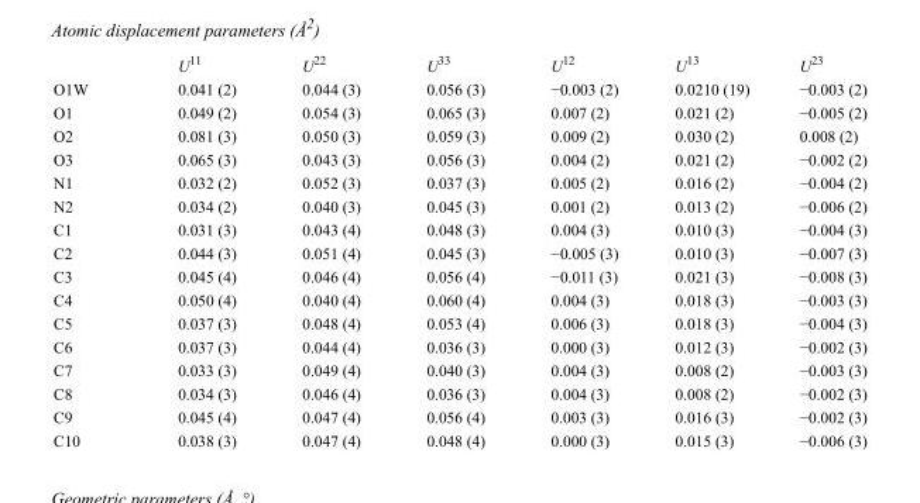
<table><thead><tr><td></td><td>U<sup>11</sup></td><td>U<sup>22</sup></td><td>U<sup>33</sup></td><td>U<sup>12</sup></td><td>U<sup>13</sup></td><td>U<sup>23</sup></td></tr></thead><tbody><tr><td>O1W</td><td>0.041 (2)</td><td>0.044 (3)</td><td>0.056 (3)</td><td>−0.003 (2)</td><td>0.0210 (19)</td><td>−0.003 (2)</td></tr><tr><td>O1</td><td>0.049 (2)</td><td>0.054 (3)</td><td>0.065 (3)</td><td>0.007 (2)</td><td>0.021 (2)</td><td>−0.005 (2)</td></tr><tr><td>O2</td><td>0.081 (3)</td><td>0.050 (3)</td><td>0.059 (3)</td><td>0.009 (2)</td><td>0.030 (2)</td><td>0.008 (2)</td></tr><tr><td>O3</td><td>0.065 (3)</td><td>0.043 (3)</td><td>0.056 (3)</td><td>0.004 (2)</td><td>0.021 (2)</td><td>−0.002 (2)</td></tr><tr><td>N1</td><td>0.032 (2)</td><td>0.052 (3)</td><td>0.037 (3)</td><td>0.005 (2)</td><td>0.016 (2)</td><td>−0.004 (2)</td></tr><tr><td>N2</td><td>0.034 (2)</td><td>0.040 (3)</td><td>0.045 (3)</td><td>0.001 (2)</td><td>0.013 (2)</td><td>−0.006 (2)</td></tr><tr><td>C1</td><td>0.031 (3)</td><td>0.043 (4)</td><td>0.048 (3)</td><td>0.004 (3)</td><td>0.010 (3)</td><td>−0.004 (3)</td></tr><tr><td>C2</td><td>0.044 (3)</td><td>0.051 (4)</td><td>0.045 (3)</td><td>−0.005 (3)</td><td>0.010 (3)</td><td>−0.007 (3)</td></tr><tr><td>C3</td><td>0.045 (4)</td><td>0.046 (4)</td><td>0.056 (4)</td><td>−0.011 (3)</td><td>0.021 (3)</td><td>−0.008 (3)</td></tr><tr><td>C4</td><td>0.050 (4)</td><td>0.040 (4)</td><td>0.060 (4)</td><td>0.004 (3)</td><td>0.018 (3)</td><td>−0.003 (3)</td></tr><tr><td>C5</td><td>0.037 (3)</td><td>0.048 (4)</td><td>0.053 (4)</td><td>0.006 (3)</td><td>0.018 (3)</td><td>−0.004 (3)</td></tr><tr><td>C6</td><td>0.037 (3)</td><td>0.044 (4)</td><td>0.036 (3)</td><td>0.000 (3)</td><td>0.012 (3)</td><td>−0.002 (3)</td></tr><tr><td>C7</td><td>0.033 (3)</td><td>0.049 (4)</td><td>0.040 (3)</td><td>0.004 (3)</td><td>0.008 (2)</td><td>−0.003 (3)</td></tr><tr><td>C8</td><td>0.034 (3)</td><td>0.046 (4)</td><td>0.036 (3)</td><td>0.004 (3)</td><td>0.008 (2)</td><td>−0.002 (3)</td></tr><tr><td>C9</td><td>0.045 (4)</td><td>0.047 (4)</td><td>0.056 (4)</td><td>0.003 (3)</td><td>0.016 (3)</td><td>−0.002 (3)</td></tr><tr><td>C10</td><td>0.038 (3)</td><td>0.047 (4)</td><td>0.048 (4)</td><td>0.000 (3)</td><td>0.015 (3)</td><td>−0.006 (3)</td></tr></tbody></table>